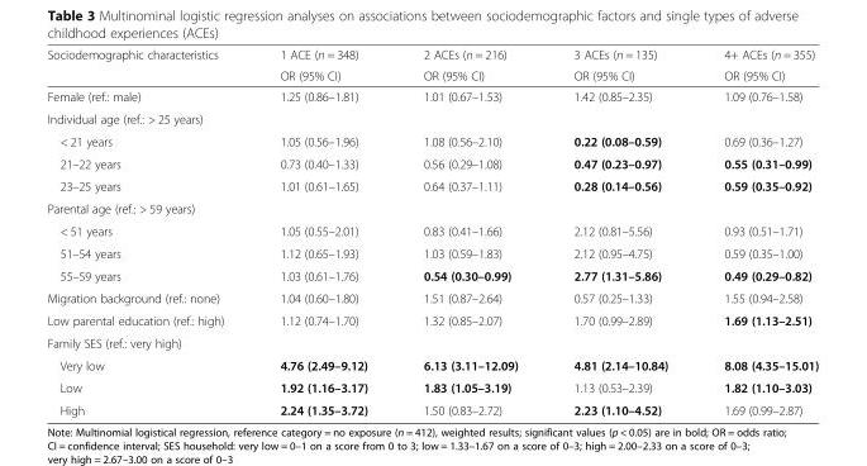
<table><thead><tr><td rowspan="2">Sociodemographic characteristics</td><td rowspan="2">1 ACE (n = 348) OR (95% CI)</td><td rowspan="2">2 ACEs (n = 216) OR (95% CI)</td><td rowspan="2">3 ACEs (n = 135) OR (95% CI)</td><td rowspan="2">4+ ACEs (n = 355) OR (95% CI)</td></tr><tr></tr></thead><tbody><tr><td>Female (ref.: male)</td><td>1.25 (0.86–1.81)</td><td>1.01 (0.67–1.53)</td><td>1.42 (0.85–2.35)</td><td>1.09 (0.76–1.58)</td></tr><tr><td colspan="5">Individual age (ref.: &gt; 25 years)</td></tr><tr><td>&lt; 21 years</td><td>1.05 (0.56–1.96)</td><td>1.08 (0.56–2.10)</td><td>0.22 (0.08–0.59)</td><td>0.69 (0.36–1.27)</td></tr><tr><td>21–22 years</td><td>0.73 (0.40–1.33)</td><td>0.56 (0.29–1.08)</td><td>0.47 (0.23–0.97)</td><td>0.55 (0.31–0.99)</td></tr><tr><td>23–25 years</td><td>1.01 (0.61–1.65)</td><td>0.64 (0.37–1.11)</td><td>0.28 (0.14–0.56)</td><td>0.59 (0.35–0.92)</td></tr><tr><td colspan="5">Parental age (ref.: &gt; 59 years)</td></tr><tr><td>&lt; 51 years</td><td>1.05 (0.55–2.01)</td><td>0.83 (0.41–1.66)</td><td>2.12 (0.81–5.56)</td><td>0.93 (0.51–1.71)</td></tr><tr><td>51–54 years</td><td>1.12 (0.65–1.93)</td><td>1.03 (0.59–1.83)</td><td>2.12 (0.95–4.75)</td><td>0.59 (0.35–1.00)</td></tr><tr><td>55–59 years</td><td>1.03 (0.61–1.76)</td><td>0.54 (0.30–0.99)</td><td>2.77 (1.31–5.86)</td><td>0.49 (0.29–0.82)</td></tr><tr><td>Migration background (ref.: none)</td><td>1.04 (0.60–1.80)</td><td>1.51 (0.87–2.64)</td><td>0.57 (0.25–1.33)</td><td>1.55 (0.94–2.58)</td></tr><tr><td>Low parental education (ref.: high)</td><td>1.12 (0.74–1.70)</td><td>1.32 (0.85–2.07)</td><td>1.70 (0.99–2.89)</td><td>1.69 (1.13–2.51)</td></tr><tr><td colspan="5">Family SES (ref.: very high)</td></tr><tr><td>Very low</td><td>4.76 (2.49–9.12)</td><td>6.13 (3.11–12.09)</td><td>4.81 (2.14–10.84)</td><td>8.08 (4.35–15.01)</td></tr><tr><td>Low</td><td>1.92 (1.16–3.17)</td><td>1.83 (1.05–3.19)</td><td>1.13 (0.53–2.39)</td><td>1.82 (1.10–3.03)</td></tr><tr><td>High</td><td>2.24 (1.35–3.72)</td><td>1.50 (0.83–2.72)</td><td>2.23 (1.10–4.52)</td><td>1.69 (0.99–2.87)</td></tr></tbody></table>